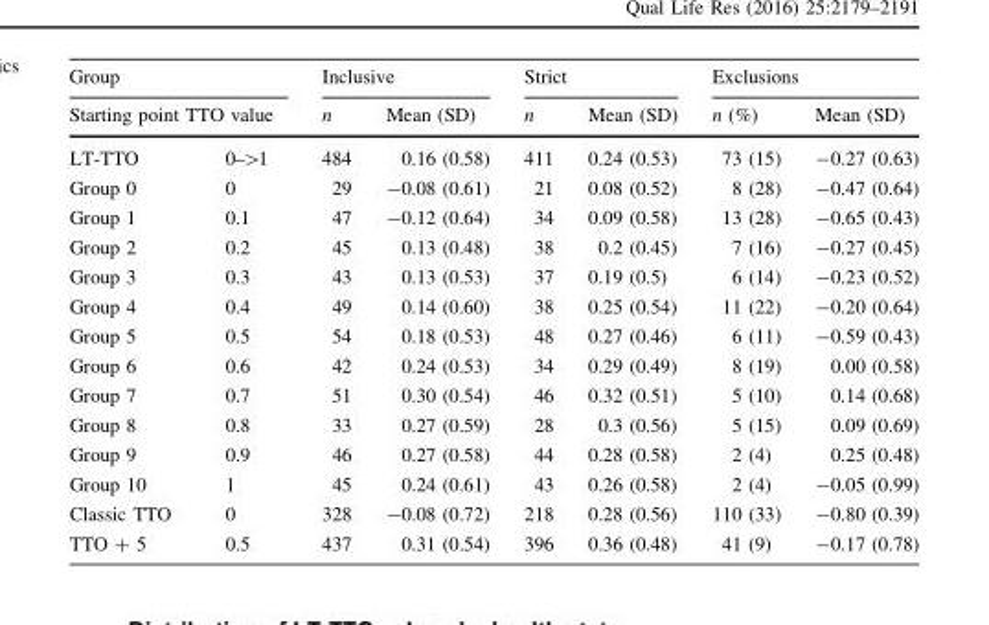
<table><thead><tr><td rowspan="2" colspan="2">Group Starting point TTO value</td><td colspan="2">Inclusive</td><td colspan="2">Strict</td><td colspan="2">Exclusions</td></tr><tr><td rowspan="2">n 484</td><td rowspan="2">Mean (SD) 0.16 (0.58)</td><td rowspan="2">n 411</td><td rowspan="2">Mean (SD) 0.24 (0.53)</td><td rowspan="2">n (%) 73 (15)</td><td rowspan="2">Mean (SD) -0.27 (0.63)</td></tr><tr><td>LT-TTO</td><td>0–&gt;1</td></tr></thead><tbody><tr><td>Group 0</td><td>0</td><td>29</td><td>-0.08 (0.61)</td><td>21</td><td>0.08 (0.52)</td><td>8 (28)</td><td>-0.47 (0.64)</td></tr><tr><td>Group 1</td><td>0.1</td><td>47</td><td>-0.12 (0.64)</td><td>34</td><td>0.09 (0.58)</td><td>13 (28)</td><td>-0.65 (0.43)</td></tr><tr><td>Group 2</td><td>0.2</td><td>45</td><td>0.13 (0.48)</td><td>38</td><td>0.2 (0.45)</td><td>7 (16)</td><td>-0.27 (0.45)</td></tr><tr><td>Group 3</td><td>0.3</td><td>43</td><td>0.13 (0.53)</td><td>37</td><td>0.19 (0.5)</td><td>6 (14)</td><td>-0.23 (0.52)</td></tr><tr><td>Group 4</td><td>0.4</td><td>49</td><td>0.14 (0.60)</td><td>38</td><td>0.25 (0.54)</td><td>11 (22)</td><td>-0.20 (0.64)</td></tr><tr><td>Group 5</td><td>0.5</td><td>54</td><td>0.18 (0.53)</td><td>48</td><td>0.27 (0.46)</td><td>6 (11)</td><td>-0.59 (0.43)</td></tr><tr><td>Group 6</td><td>0.6</td><td>42</td><td>0.24 (0.53)</td><td>34</td><td>0.29 (0.49)</td><td>8 (19)</td><td>0.00 (0.58)</td></tr><tr><td>Group 7</td><td>0.7</td><td>51</td><td>0.30 (0.54)</td><td>46</td><td>0.32 (0.51)</td><td>5 (10)</td><td>0.14 (0.68)</td></tr><tr><td>Group 8</td><td>0.8</td><td>33</td><td>0.27 (0.59)</td><td>28</td><td>0.3 (0.56)</td><td>5 (15)</td><td>0.09 (0.69)</td></tr><tr><td>Group 9</td><td>0.9</td><td>46</td><td>0.27 (0.58)</td><td>44</td><td>0.28 (0.58)</td><td>2 (4)</td><td>0.25 (0.48)</td></tr><tr><td>Group 10</td><td>1</td><td>45</td><td>0.24 (0.61)</td><td>43</td><td>0.26 (0.58)</td><td>2 (4)</td><td>-0.05 (0.99)</td></tr><tr><td>Classic TTO</td><td>0</td><td>328</td><td>-0.08 (0.72)</td><td>218</td><td>0.28 (0.56)</td><td>110 (33)</td><td>-0.80 (0.39)</td></tr><tr><td>TTO + 5</td><td>0.5</td><td>437</td><td>0.31 (0.54)</td><td>396</td><td>0.36 (0.48)</td><td>41 (9)</td><td>-0.17 (0.78)</td></tr></tbody></table>